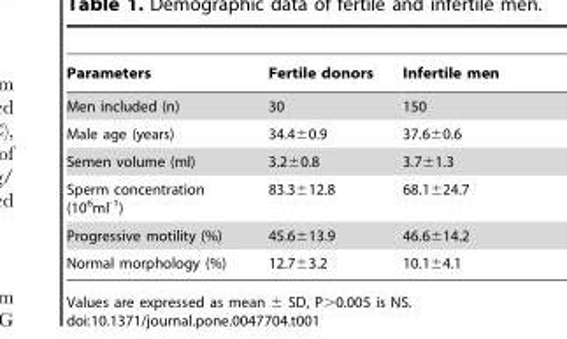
<table><thead><tr><td>Parameters</td><td>Fertile donors</td><td>Infertile men</td></tr></thead><tbody><tr><td>Men included (n)</td><td>30</td><td>150</td></tr><tr><td>Male age (years)</td><td>34.4±0.9</td><td>37.6±0.6</td></tr><tr><td>Semen volume (ml)</td><td>3.2±0.8</td><td>3.7±1.3</td></tr><tr><td>Sperm concentration (10<sup>6</sup>ml<sup>-1</sup>)</td><td>83.3±12.8</td><td>68.1±24.7</td></tr><tr><td>Progressive motility (%)</td><td>45.6±13.9</td><td>46.6±14.2</td></tr><tr><td>Normal morphology (%)</td><td>12.7±3.2</td><td>10.1±4.1</td></tr></tbody></table>